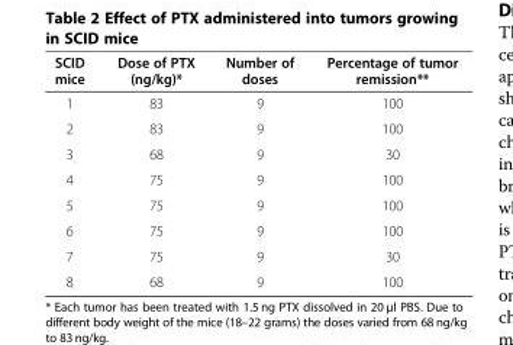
<table><thead><tr><td>SCID mice</td><td>Dose of PTX (ng/kg)*</td><td>Number of doses</td><td>Percentage of tumor remission**</td></tr></thead><tbody><tr><td>1</td><td>83</td><td>9</td><td>100</td></tr><tr><td>2</td><td>83</td><td>9</td><td>100</td></tr><tr><td>3</td><td>68</td><td>9</td><td>30</td></tr><tr><td>4</td><td>75</td><td>9</td><td>100</td></tr><tr><td>5</td><td>75</td><td>9</td><td>100</td></tr><tr><td>6</td><td>75</td><td>9</td><td>100</td></tr><tr><td>7</td><td>75</td><td>9</td><td>30</td></tr><tr><td>8</td><td>68</td><td>9</td><td>100</td></tr></tbody></table>